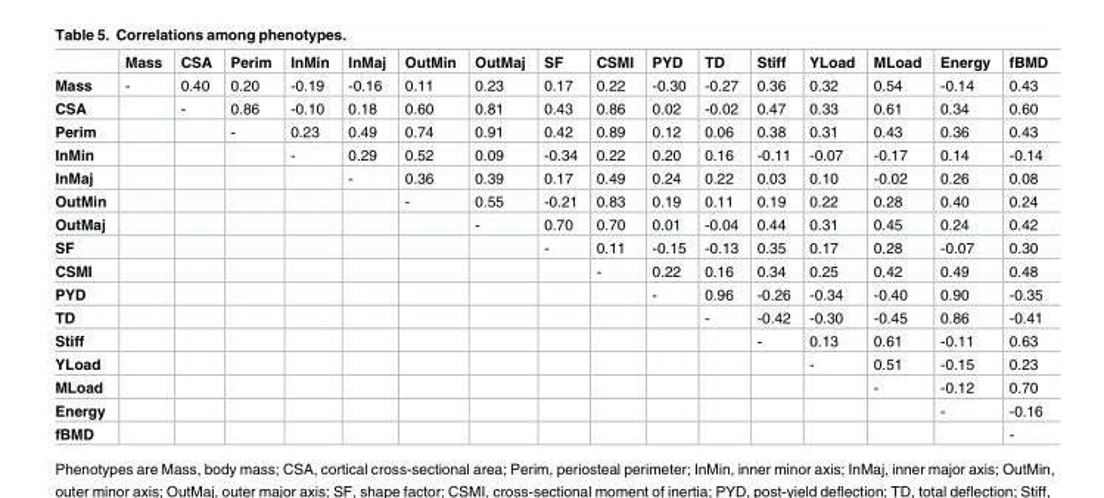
<table><thead><tr><td></td><td>Mass</td><td>CSA</td><td>Perim</td><td>InMin</td><td>InMaj</td><td>OutMin</td><td>OutMaj</td><td>SF</td><td>CSMI</td><td>PYD</td><td>TD</td><td>Stiff</td><td>YLoad</td><td>MLoad</td><td>Energy</td><td>fBMD</td></tr></thead><tbody><tr><td>Mass</td><td>-</td><td>0.40</td><td>0.20</td><td>-0.19</td><td>-0.16</td><td>0.11</td><td>0.23</td><td>0.17</td><td>0.22</td><td>-0.30</td><td>-0.27</td><td>0.36</td><td>0.32</td><td>0.54</td><td>-0.14</td><td>0.43</td></tr><tr><td>CSA</td><td></td><td>-</td><td>0.86</td><td>-0.10</td><td>0.18</td><td>0.60</td><td>0.81</td><td>0.43</td><td>0.86</td><td>0.02</td><td>-0.02</td><td>0.47</td><td>0.33</td><td>0.61</td><td>0.34</td><td>0.60</td></tr><tr><td>Perim</td><td></td><td></td><td>-</td><td>0.23</td><td>0.49</td><td>0.74</td><td>0.91</td><td>0.42</td><td>0.89</td><td>0.12</td><td>0.06</td><td>0.38</td><td>0.31</td><td>0.43</td><td>0.36</td><td>0.43</td></tr><tr><td>InMin</td><td></td><td></td><td></td><td>-</td><td>0.29</td><td>0.52</td><td>0.09</td><td>-0.34</td><td>0.22</td><td>0.20</td><td>0.16</td><td>-0.11</td><td>-0.07</td><td>-0.17</td><td>0.14</td><td>-0.14</td></tr><tr><td>InMaj</td><td></td><td></td><td></td><td></td><td>-</td><td>0.36</td><td>0.39</td><td>0.17</td><td>0.49</td><td>0.24</td><td>0.22</td><td>0.03</td><td>0.10</td><td>-0.02</td><td>0.26</td><td>0.08</td></tr><tr><td>OutMin</td><td></td><td></td><td></td><td></td><td></td><td>-</td><td>0.55</td><td>-0.21</td><td>0.83</td><td>0.19</td><td>0.11</td><td>0.19</td><td>0.22</td><td>0.28</td><td>0.40</td><td>0.24</td></tr><tr><td>OutMaj</td><td></td><td></td><td></td><td></td><td></td><td></td><td>-</td><td>0.70</td><td>0.70</td><td>0.01</td><td>-0.04</td><td>0.44</td><td>0.31</td><td>0.45</td><td>0.24</td><td>0.42</td></tr><tr><td>SF</td><td></td><td></td><td></td><td></td><td></td><td></td><td></td><td>-</td><td>0.11</td><td>-0.15</td><td>-0.13</td><td>0.35</td><td>0.17</td><td>0.28</td><td>-0.07</td><td>0.30</td></tr><tr><td>CSMI</td><td></td><td></td><td></td><td></td><td></td><td></td><td></td><td></td><td>-</td><td>0.22</td><td>0.16</td><td>0.34</td><td>0.25</td><td>0.42</td><td>0.49</td><td>0.48</td></tr><tr><td>PYD</td><td></td><td></td><td></td><td></td><td></td><td></td><td></td><td></td><td></td><td>-</td><td>0.96</td><td>-0.26</td><td>-0.34</td><td>-0.40</td><td>0.90</td><td>-0.35</td></tr><tr><td>TD</td><td></td><td></td><td></td><td></td><td></td><td></td><td></td><td></td><td></td><td></td><td>-</td><td>-0.42</td><td>-0.30</td><td>-0.45</td><td>0.86</td><td>-0.41</td></tr><tr><td>Stiff</td><td></td><td></td><td></td><td></td><td></td><td></td><td></td><td></td><td></td><td></td><td></td><td>-</td><td>0.13</td><td>0.61</td><td>-0.11</td><td>0.63</td></tr><tr><td>YLoad</td><td></td><td></td><td></td><td></td><td></td><td></td><td></td><td></td><td></td><td></td><td></td><td></td><td>-</td><td>0.51</td><td>-0.15</td><td>0.23</td></tr><tr><td>MLoad</td><td></td><td></td><td></td><td></td><td></td><td></td><td></td><td></td><td></td><td></td><td></td><td></td><td></td><td>-</td><td>-0.12</td><td>0.70</td></tr><tr><td>Energy</td><td></td><td></td><td></td><td></td><td></td><td></td><td></td><td></td><td></td><td></td><td></td><td></td><td></td><td></td><td>-</td><td>-0.16</td></tr><tr><td>fBMD</td><td></td><td></td><td></td><td></td><td></td><td></td><td></td><td></td><td></td><td></td><td></td><td></td><td></td><td></td><td></td><td>-</td></tr></tbody></table>